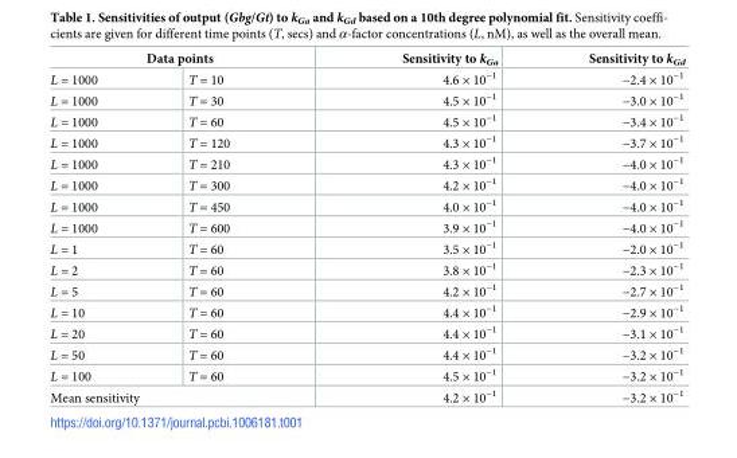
<table><thead><tr><td colspan="2">Data points</td><td rowspan="2">Sensitivity to k<sub>Ga</sub> 4.6 × 10<sup>−1</sup></td><td rowspan="2">Sensitivity to k<sub>Gd</sub> −2.4 × 10<sup>−1</sup></td></tr><tr><td>L = 1000</td><td>T = 10</td></tr></thead><tbody><tr><td>L = 1000</td><td>T = 30</td><td>4.5 × 10<sup>−1</sup></td><td>−3.0 × 10<sup>−1</sup></td></tr><tr><td>L = 1000</td><td>T = 60</td><td>4.5 × 10<sup>−1</sup></td><td>−3.4 × 10<sup>−1</sup></td></tr><tr><td>L = 1000</td><td>T = 120</td><td>4.3 × 10<sup>−1</sup></td><td>−3.7 × 10<sup>−1</sup></td></tr><tr><td>L = 1000</td><td>T = 210</td><td>4.3 × 10<sup>−1</sup></td><td>−4.0 × 10<sup>−1</sup></td></tr><tr><td>L = 1000</td><td>T = 300</td><td>4.2 × 10<sup>−1</sup></td><td>−4.0 × 10<sup>−1</sup></td></tr><tr><td>L = 1000</td><td>T = 450</td><td>4.0 × 10<sup>−1</sup></td><td>−4.0 × 10<sup>−1</sup></td></tr><tr><td>L = 1000</td><td>T = 600</td><td>3.9 × 10<sup>−1</sup></td><td>−4.0 × 10<sup>−1</sup></td></tr><tr><td>L = 1</td><td>T = 60</td><td>3.5 × 10<sup>−1</sup></td><td>−2.0 × 10<sup>−1</sup></td></tr><tr><td>L = 2</td><td>T = 60</td><td>3.8 × 10<sup>−1</sup></td><td>−2.3 × 10<sup>−1</sup></td></tr><tr><td>L = 5</td><td>T = 60</td><td>4.2 × 10<sup>−1</sup></td><td>−2.7 × 10<sup>−1</sup></td></tr><tr><td>L = 10</td><td>T = 60</td><td>4.4 × 10<sup>−1</sup></td><td>−2.9 × 10<sup>−1</sup></td></tr><tr><td>L = 20</td><td>T = 60</td><td>4.4 × 10<sup>−1</sup></td><td>−3.1 × 10<sup>−1</sup></td></tr><tr><td>L = 50</td><td>T = 60</td><td>4.4 × 10<sup>−1</sup></td><td>−3.2 × 10<sup>−1</sup></td></tr><tr><td>L = 100</td><td>T = 60</td><td>4.5 × 10<sup>−1</sup></td><td>−3.2 × 10<sup>−1</sup></td></tr><tr><td colspan="2">Mean sensitivity</td><td>4.2 × 10<sup>−1</sup></td><td>−3.2 × 10<sup>−1</sup></td></tr></tbody></table>